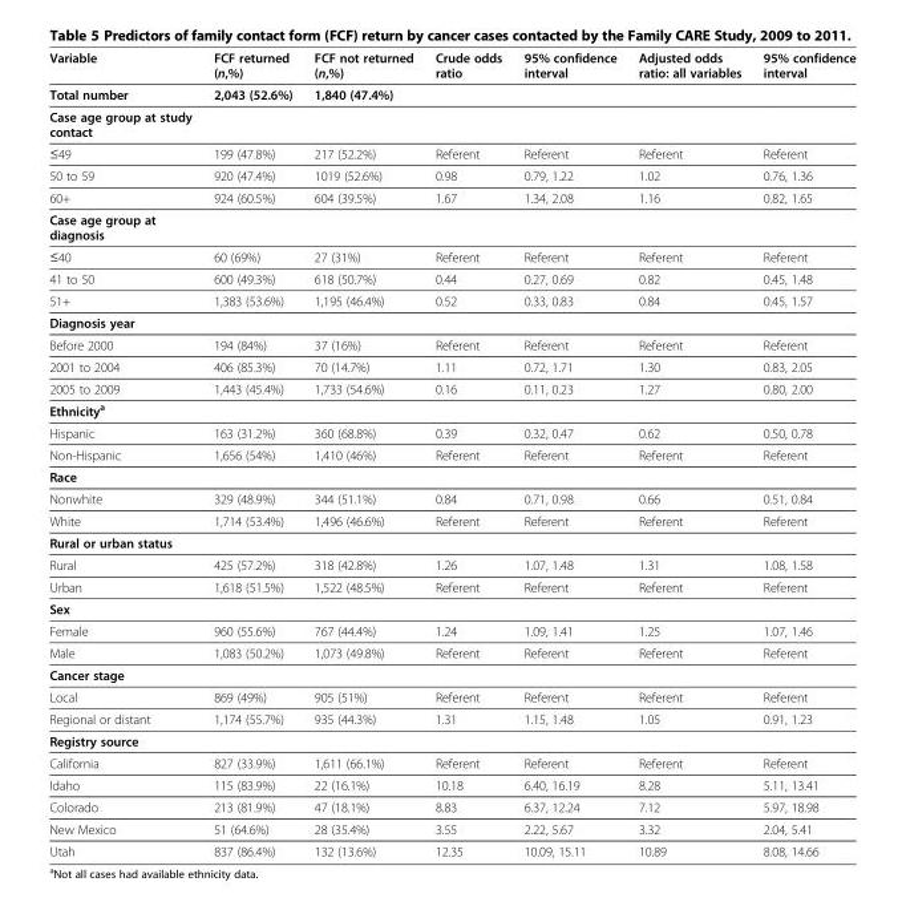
<table><thead><tr><td rowspan="2">Variable Total number</td><td rowspan="2">FCF returned (n,%) 2,043 (52.6%)</td><td rowspan="2">FCF not returned (n,%) 1,840 (47.4%)</td><td rowspan="2">Crude odds ratio</td><td rowspan="2">95% confidence interval</td><td rowspan="2">Adjusted odds ratio: all variables</td><td rowspan="2">95% confidence interval</td></tr><tr></tr></thead><tbody><tr><td colspan="7">Case age group at study contact</td></tr><tr><td>≤49</td><td>199 (47.8%)</td><td>217 (52.2%)</td><td>Referent</td><td>Referent</td><td>Referent</td><td>Referent</td></tr><tr><td>50 to 59</td><td>920 (47.4%)</td><td>1019 (52.6%)</td><td>0.98</td><td>0.79, 1.22</td><td>1.02</td><td>0.76, 1.36</td></tr><tr><td>60+</td><td>924 (60.5%)</td><td>604 (39.5%)</td><td>1.67</td><td>1.34, 2.08</td><td>1.16</td><td>0.82, 1.65</td></tr><tr><td colspan="7">Case age group at diagnosis</td></tr><tr><td>≤40</td><td>60 (69%)</td><td>27 (31%)</td><td>Referent</td><td>Referent</td><td>Referent</td><td>Referent</td></tr><tr><td>41 to 50</td><td>600 (49.3%)</td><td>618 (50.7%)</td><td>0.44</td><td>0.27, 0.69</td><td>0.82</td><td>0.45, 1.48</td></tr><tr><td>51+</td><td>1,383 (53.6%)</td><td>1,195 (46.4%)</td><td>0.52</td><td>0.33, 0.83</td><td>0.84</td><td>0.45, 1.57</td></tr><tr><td colspan="7">Diagnosis year</td></tr><tr><td>Before 2000</td><td>194 (84%)</td><td>37 (16%)</td><td>Referent</td><td>Referent</td><td>Referent</td><td>Referent</td></tr><tr><td>2001 to 2004</td><td>406 (85.3%)</td><td>70 (14.7%)</td><td>1.11</td><td>0.72, 1.71</td><td>1.30</td><td>0.83, 2.05</td></tr><tr><td>2005 to 2009</td><td>1,443 (45.4%)</td><td>1,733 (54.6%)</td><td>0.16</td><td>0.11, 0.23</td><td>1.27</td><td>0.80, 2.00</td></tr><tr><td colspan="7">Ethnicity<sup>a</sup></td></tr><tr><td>Hispanic</td><td>163 (31.2%)</td><td>360 (68.8%)</td><td>0.39</td><td>0.32, 0.47</td><td>0.62</td><td>0.50, 0.78</td></tr><tr><td>Non-Hispanic</td><td>1,656 (54%)</td><td>1,410 (46%)</td><td>Referent</td><td>Referent</td><td>Referent</td><td>Referent</td></tr><tr><td colspan="7">Race</td></tr><tr><td>Nonwhite</td><td>329 (48.9%)</td><td>344 (51.1%)</td><td>0.84</td><td>0.71, 0.98</td><td>0.66</td><td>0.51, 0.84</td></tr><tr><td>White</td><td>1,714 (53.4%)</td><td>1,496 (46.6%)</td><td>Referent</td><td>Referent</td><td>Referent</td><td>Referent</td></tr><tr><td colspan="7">Rural or urban status</td></tr><tr><td>Rural</td><td>425 (57.2%)</td><td>318 (42.8%)</td><td>1.26</td><td>1.07, 1.48</td><td>1.31</td><td>1.08, 1.58</td></tr><tr><td>Urban</td><td>1,618 (51.5%)</td><td>1,522 (48.5%)</td><td>Referent</td><td>Referent</td><td>Referent</td><td>Referent</td></tr><tr><td colspan="7">Sex</td></tr><tr><td>Female</td><td>960 (55.6%)</td><td>767 (44.4%)</td><td>1.24</td><td>1.09, 1.41</td><td>1.25</td><td>1.07, 1.46</td></tr><tr><td>Male</td><td>1,083 (50.2%)</td><td>1,073 (49.8%)</td><td>Referent</td><td>Referent</td><td>Referent</td><td>Referent</td></tr><tr><td colspan="7">Cancer stage</td></tr><tr><td>Local</td><td>869 (49%)</td><td>905 (51%)</td><td>Referent</td><td>Referent</td><td>Referent</td><td>Referent</td></tr><tr><td>Regional or distant</td><td>1,174 (55.7%)</td><td>935 (44.3%)</td><td>1.31</td><td>1.15, 1.48</td><td>1.05</td><td>0.91, 1.23</td></tr><tr><td colspan="7">Registry source</td></tr><tr><td>California</td><td>827 (33.9%)</td><td>1,611 (66.1%)</td><td>Referent</td><td>Referent</td><td>Referent</td><td>Referent</td></tr><tr><td>Idaho</td><td>115 (83.9%)</td><td>22 (16.1%)</td><td>10.18</td><td>6.40, 16.19</td><td>8.28</td><td>5.11, 13.41</td></tr><tr><td>Colorado</td><td>213 (81.9%)</td><td>47 (18.1%)</td><td>8.83</td><td>6.37, 12.24</td><td>7.12</td><td>5.97, 18.98</td></tr><tr><td>New Mexico</td><td>51 (64.6%)</td><td>28 (35.4%)</td><td>3.55</td><td>2.22, 5.67</td><td>3.32</td><td>2.04, 5.41</td></tr><tr><td>Utah</td><td>837 (86.4%)</td><td>132 (13.6%)</td><td>12.35</td><td>10.09, 15.11</td><td>10.89</td><td>8.08, 14.66</td></tr></tbody></table>